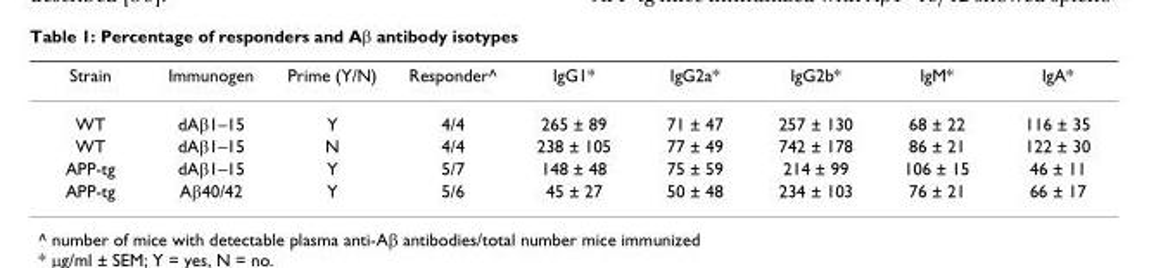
<table><thead><tr><td>Strain</td><td>Immunogen</td><td>Prime (Y/N)</td><td>Responder^</td><td>IgG1*</td><td>IgG2a*</td><td>IgG2b*</td><td>IgM*</td><td>IgA*</td></tr></thead><tbody><tr><td>WT</td><td>dAβ1–15</td><td>Y</td><td>4/4</td><td>265 ± 89</td><td>71 ± 47</td><td>257 ± 130</td><td>68 ± 22</td><td>116 ± 35</td></tr><tr><td>WT</td><td>dAβ1–15</td><td>N</td><td>4/4</td><td>238 ± 105</td><td>77 ± 49</td><td>742 ± 178</td><td>86 ± 21</td><td>122 ± 30</td></tr><tr><td>APP-tg</td><td>dAβ1–15</td><td>Y</td><td>5/7</td><td>148 ± 48</td><td>75 ± 59</td><td>214 ± 99</td><td>106 ± 15</td><td>46 ± 11</td></tr><tr><td>APP-tg</td><td>Aβ40/42</td><td>Y</td><td>5/6</td><td>45 ± 27</td><td>50 ± 48</td><td>234 ± 103</td><td>76 ± 21</td><td>66 ± 17</td></tr></tbody></table>